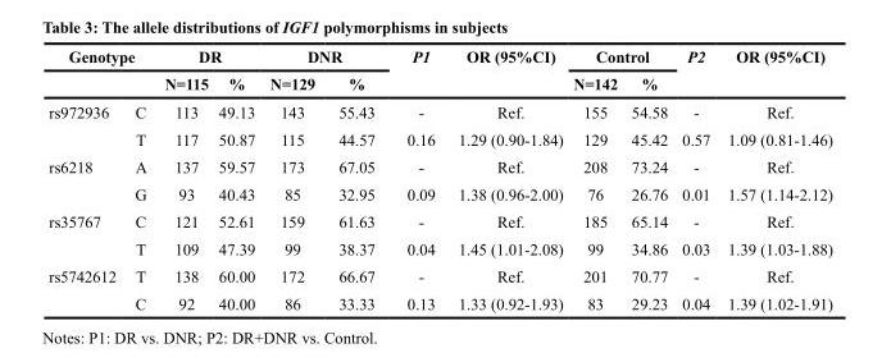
<table><thead><tr><td rowspan="2" colspan="2">Genotype</td><td colspan="2">DR</td><td colspan="2">DNR</td><td rowspan="3">P1 -</td><td rowspan="3">OR (95%CI) Ref.</td><td colspan="2">Control</td><td rowspan="3">P2 -</td><td rowspan="3">OR (95%CI) Ref.</td></tr><tr><td rowspan="2">N=115 113</td><td rowspan="2">% 49.13</td><td rowspan="2">N=129 143</td><td rowspan="2">% 55.43</td><td rowspan="2">N=142 155</td><td rowspan="2">% 54.58</td></tr><tr><td>rs972936</td><td>C</td></tr></thead><tbody><tr><td></td><td>T</td><td>117</td><td>50.87</td><td>115</td><td>44.57</td><td>0.16</td><td>1.29 (0.90-1.84)</td><td>129</td><td>45.42</td><td>0.57</td><td>1.09 (0.81-1.46)</td></tr><tr><td rowspan="2">rs6218</td><td>A</td><td>137</td><td>59.57</td><td>173</td><td>67.05</td><td>-</td><td>Ref.</td><td>208</td><td>73.24</td><td>-</td><td>Ref.</td></tr><tr><td>G</td><td>93</td><td>40.43</td><td>85</td><td>32.95</td><td>0.09</td><td>1.38 (0.96-2.00)</td><td>76</td><td>26.76</td><td>0.01</td><td>1.57 (1.14-2.12)</td></tr><tr><td rowspan="2">rs35767</td><td>C</td><td>121</td><td>52.61</td><td>159</td><td>61.63</td><td>-</td><td>Ref.</td><td>185</td><td>65.14</td><td>-</td><td>Ref.</td></tr><tr><td>T</td><td>109</td><td>47.39</td><td>99</td><td>38.37</td><td>0.04</td><td>1.45 (1.01-2.08)</td><td>99</td><td>34.86</td><td>0.03</td><td>1.39 (1.03-1.88)</td></tr><tr><td rowspan="2">rs5742612</td><td>T</td><td>138</td><td>60.00</td><td>172</td><td>66.67</td><td>-</td><td>Ref.</td><td>201</td><td>70.77</td><td>-</td><td>Ref.</td></tr><tr><td>C</td><td>92</td><td>40.00</td><td>86</td><td>33.33</td><td>0.13</td><td>1.33 (0.92-1.93)</td><td>83</td><td>29.23</td><td>0.04</td><td>1.39 (1.02-1.91)</td></tr></tbody></table>